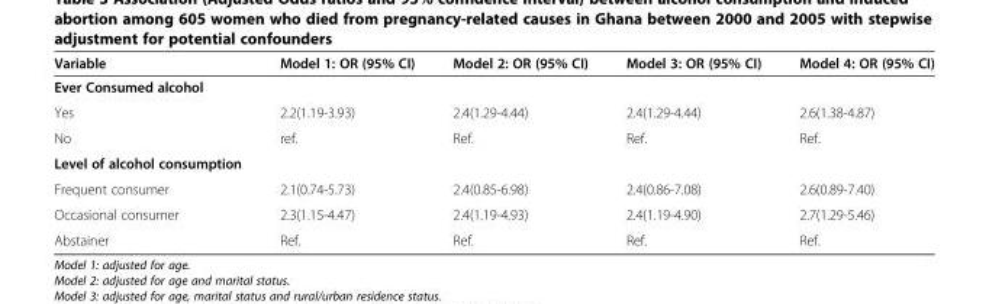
<table><thead><tr><td>Variable</td><td>Model 1: OR (95% CI)</td><td>Model 2: OR (95% CI)</td><td>Model 3: OR (95% CI)</td><td>Model 4: OR (95% CI)</td></tr></thead><tbody><tr><td colspan="5">Ever Consumed alcohol</td></tr><tr><td>Yes</td><td>2.2(1.19-3.93)</td><td>2.4(1.29-4.44)</td><td>2.4(1.29-4.44)</td><td>2.6(1.38-4.87)</td></tr><tr><td>No</td><td>ref.</td><td>Ref.</td><td>Ref.</td><td>Ref.</td></tr><tr><td colspan="5">Level of alcohol consumption</td></tr><tr><td>Frequent consumer</td><td>2.1(0.74-5.73)</td><td>2.4(0.85-6.98)</td><td>2.4(0.86-7.08)</td><td>2.6(0.89-7.40)</td></tr><tr><td>Occasional consumer</td><td>2.3(1.15-4.47)</td><td>2.4(1.19-4.93)</td><td>2.4(1.19-4.90)</td><td>2.7(1.29-5.46)</td></tr><tr><td>Abstainer</td><td>Ref.</td><td>Ref.</td><td>Ref.</td><td>Ref.</td></tr></tbody></table>